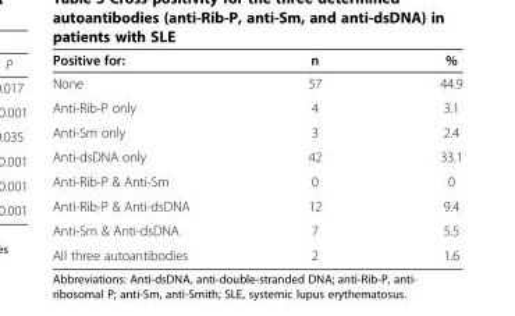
<table><thead><tr><td>Positive for:</td><td>n</td><td>%</td></tr></thead><tbody><tr><td>None</td><td>57</td><td>44.9</td></tr><tr><td>Anti-Rib-P only</td><td>4</td><td>3.1</td></tr><tr><td>Anti-Sm only</td><td>3</td><td>2.4</td></tr><tr><td>Anti-dsDNA only</td><td>42</td><td>33.1</td></tr><tr><td>Anti-Rib-P &amp; Anti-Sm</td><td>0</td><td>0</td></tr><tr><td>Anti-Rib-P &amp; Anti-dsDNA</td><td>12</td><td>9.4</td></tr><tr><td>Anti-Sm &amp; Anti-dsDNA</td><td>7</td><td>5.5</td></tr><tr><td>All three autoantibodies</td><td>2</td><td>1.6</td></tr></tbody></table>